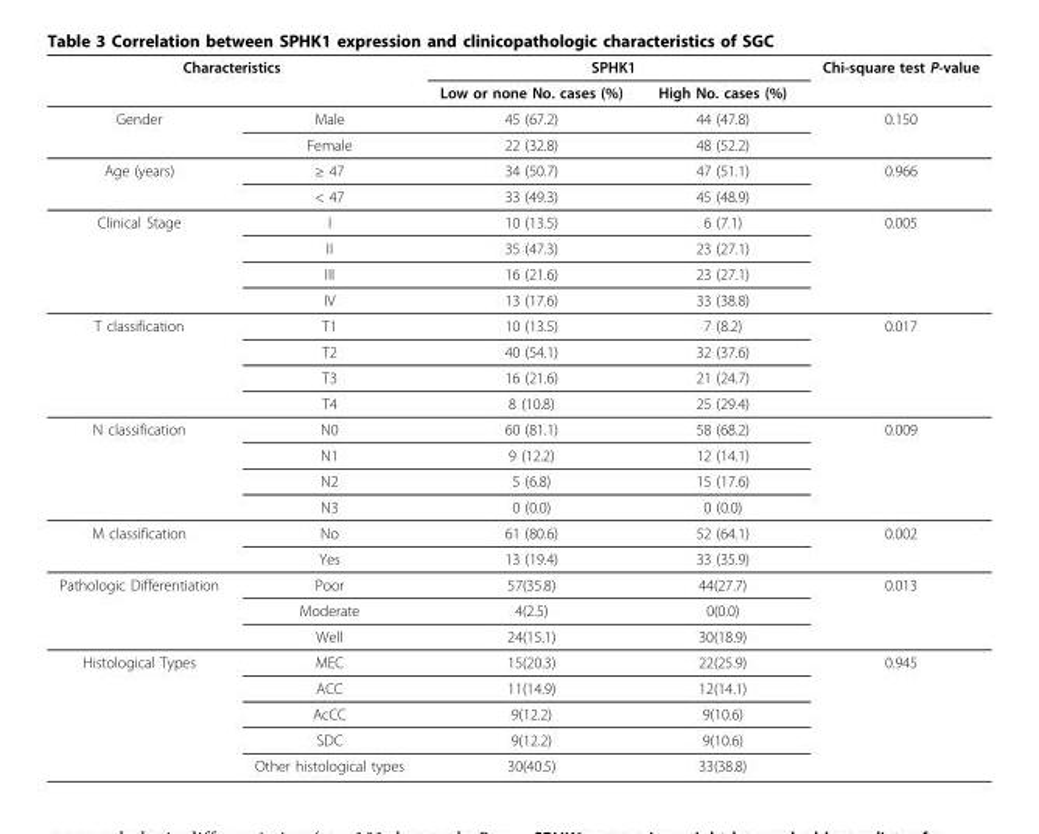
<table><thead><tr><td colspan="2">Characteristics</td><td colspan="2">SPHK1</td><td rowspan="2">Chi-square test P-value</td></tr><tr><td></td><td></td><td>Low or none No. cases (%)</td><td>High No. cases (%)</td></tr></thead><tbody><tr><td rowspan="2">Gender</td><td>Male</td><td>45 (67.2)</td><td>44 (47.8)</td><td>0.150</td></tr><tr><td>Female</td><td>22 (32.8)</td><td>48 (52.2)</td><td></td></tr><tr><td rowspan="2">Age (years)</td><td>≥ 47</td><td>34 (50.7)</td><td>47 (51.1)</td><td>0.966</td></tr><tr><td>&lt; 47</td><td>33 (49.3)</td><td>45 (48.9)</td><td></td></tr><tr><td rowspan="4">Clinical Stage</td><td>I</td><td>10 (13.5)</td><td>6 (7.1)</td><td>0.005</td></tr><tr><td>II</td><td>35 (47.3)</td><td>23 (27.1)</td><td></td></tr><tr><td>III</td><td>16 (21.6)</td><td>23 (27.1)</td><td></td></tr><tr><td>IV</td><td>13 (17.6)</td><td>33 (38.8)</td><td></td></tr><tr><td rowspan="4">T classification</td><td>T1</td><td>10 (13.5)</td><td>7 (8.2)</td><td>0.017</td></tr><tr><td>T2</td><td>40 (54.1)</td><td>32 (37.6)</td><td></td></tr><tr><td>T3</td><td>16 (21.6)</td><td>21 (24.7)</td><td></td></tr><tr><td>T4</td><td>8 (10.8)</td><td>25 (29.4)</td><td></td></tr><tr><td rowspan="4">N classification</td><td>N0</td><td>60 (81.1)</td><td>58 (68.2)</td><td>0.009</td></tr><tr><td>N1</td><td>9 (12.2)</td><td>12 (14.1)</td><td></td></tr><tr><td>N2</td><td>5 (6.8)</td><td>15 (17.6)</td><td></td></tr><tr><td>N3</td><td>0 (0.0)</td><td>0 (0.0)</td><td></td></tr><tr><td rowspan="2">M classification</td><td>No</td><td>61 (80.6)</td><td>52 (64.1)</td><td>0.002</td></tr><tr><td>Yes</td><td>13 (19.4)</td><td>33 (35.9)</td><td></td></tr><tr><td rowspan="3">Pathologic Differentiation</td><td>Poor</td><td>57(35.8)</td><td>44(27.7)</td><td>0.013</td></tr><tr><td>Moderate</td><td>4(2.5)</td><td>0(0.0)</td><td></td></tr><tr><td>Well</td><td>24(15.1)</td><td>30(18.9)</td><td></td></tr><tr><td rowspan="5">Histological Types</td><td>MEC</td><td>15(20.3)</td><td>22(25.9)</td><td>0.945</td></tr><tr><td>ACC</td><td>11(14.9)</td><td>12(14.1)</td><td></td></tr><tr><td>AcCC</td><td>9(12.2)</td><td>9(10.6)</td><td></td></tr><tr><td>SDC</td><td>9(12.2)</td><td>9(10.6)</td><td></td></tr><tr><td>Other histological types</td><td>30(40.5)</td><td>33(38.8)</td><td></td></tr></tbody></table>